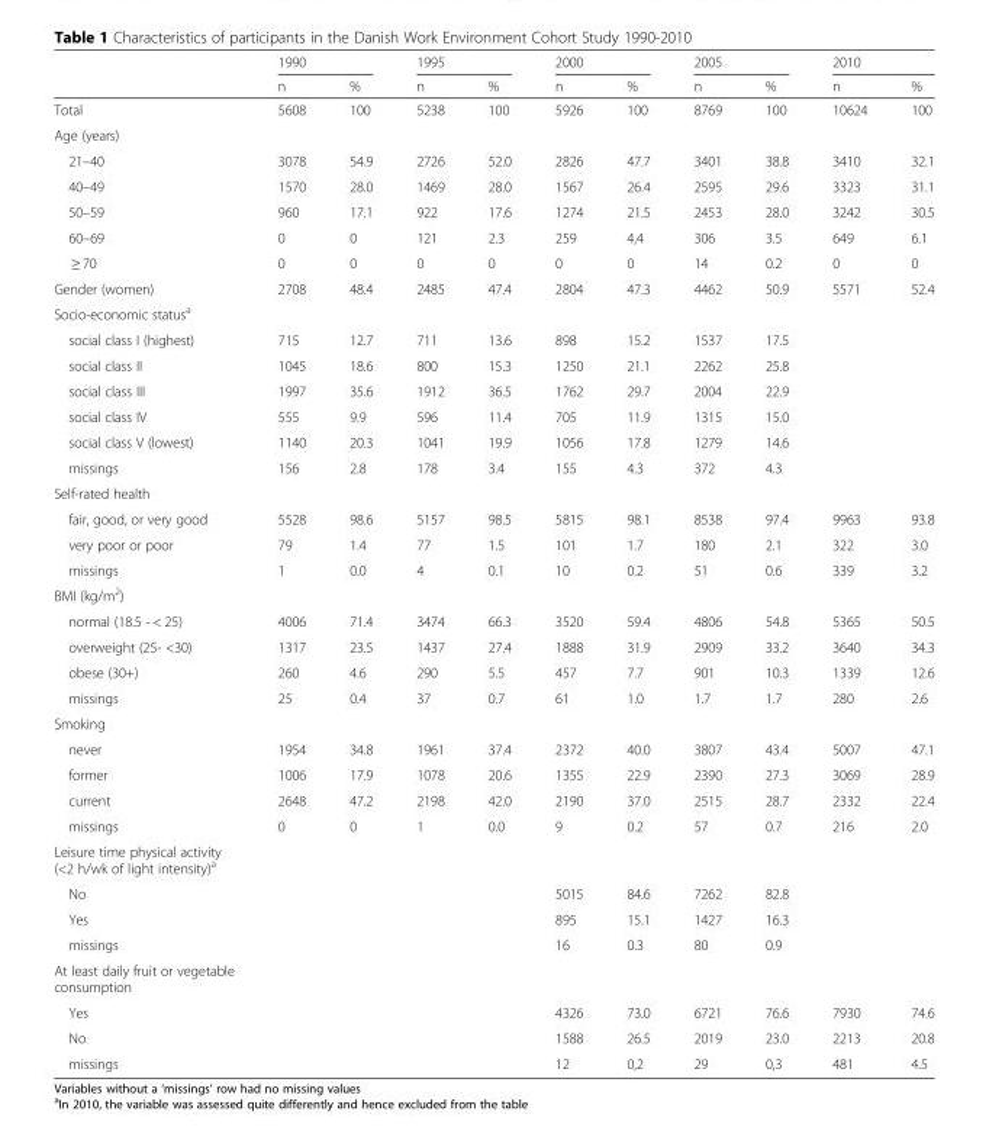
<table><thead><tr><td rowspan="2"></td><td colspan="2">1990</td><td colspan="2">1995</td><td colspan="2">2000</td><td colspan="2">2005</td><td colspan="2">2010</td></tr><tr><td>n</td><td>%</td><td>n</td><td>%</td><td>n</td><td>%</td><td>n</td><td>%</td><td>n</td><td>%</td></tr></thead><tbody><tr><td>Total</td><td>5608</td><td>100</td><td>5238</td><td>100</td><td>5926</td><td>100</td><td>8769</td><td>100</td><td>10624</td><td>100</td></tr><tr><td colspan="11">Age (years)</td></tr><tr><td>21–40</td><td>3078</td><td>54.9</td><td>2726</td><td>52.0</td><td>2826</td><td>47.7</td><td>3401</td><td>38.8</td><td>3410</td><td>32.1</td></tr><tr><td>40–49</td><td>1570</td><td>28.0</td><td>1469</td><td>28.0</td><td>1567</td><td>26.4</td><td>2595</td><td>29.6</td><td>3323</td><td>31.1</td></tr><tr><td>50–59</td><td>960</td><td>17.1</td><td>922</td><td>17.6</td><td>1274</td><td>21.5</td><td>2453</td><td>28.0</td><td>3242</td><td>30.5</td></tr><tr><td>60–69</td><td>0</td><td>0</td><td>121</td><td>2.3</td><td>259</td><td>4,4</td><td>306</td><td>3.5</td><td>649</td><td>6.1</td></tr><tr><td>≥ 70</td><td>0</td><td>0</td><td>0</td><td>0</td><td>0</td><td>0</td><td>14</td><td>0.2</td><td>0</td><td>0</td></tr><tr><td>Gender (women)</td><td>2708</td><td>48.4</td><td>2485</td><td>47.4</td><td>2804</td><td>47.3</td><td>4462</td><td>50.9</td><td>5571</td><td>52.4</td></tr><tr><td colspan="11">Socio-economic status<sup>a</sup></td></tr><tr><td>social class I (highest)</td><td>715</td><td>12.7</td><td>711</td><td>13.6</td><td>898</td><td>15.2</td><td>1537</td><td>17.5</td><td></td><td></td></tr><tr><td>social class II</td><td>1045</td><td>18.6</td><td>800</td><td>15.3</td><td>1250</td><td>21.1</td><td>2262</td><td>25.8</td><td></td><td></td></tr><tr><td>social class III</td><td>1997</td><td>35.6</td><td>1912</td><td>36.5</td><td>1762</td><td>29.7</td><td>2004</td><td>22.9</td><td></td><td></td></tr><tr><td>social class IV</td><td>555</td><td>9.9</td><td>596</td><td>11.4</td><td>705</td><td>11.9</td><td>1315</td><td>15.0</td><td></td><td></td></tr><tr><td>social class V (lowest)</td><td>1140</td><td>20.3</td><td>1041</td><td>19.9</td><td>1056</td><td>17.8</td><td>1279</td><td>14.6</td><td></td><td></td></tr><tr><td>missings</td><td>156</td><td>2.8</td><td>178</td><td>3.4</td><td>155</td><td>4.3</td><td>372</td><td>4.3</td><td></td><td></td></tr><tr><td colspan="11">Self-rated health</td></tr><tr><td>fair, good, or very good</td><td>5528</td><td>98.6</td><td>5157</td><td>98.5</td><td>5815</td><td>98.1</td><td>8538</td><td>97.4</td><td>9963</td><td>93.8</td></tr><tr><td>very poor or poor</td><td>79</td><td>1.4</td><td>77</td><td>1.5</td><td>101</td><td>1.7</td><td>180</td><td>2.1</td><td>322</td><td>3.0</td></tr><tr><td>missings</td><td>1</td><td>0.0</td><td>4</td><td>0.1</td><td>10</td><td>0.2</td><td>51</td><td>0.6</td><td>339</td><td>3.2</td></tr><tr><td colspan="11">BMI (kg/m<sup>2</sup>)</td></tr><tr><td>normal (18.5 - &lt; 25)</td><td>4006</td><td>71.4</td><td>3474</td><td>66.3</td><td>3520</td><td>59.4</td><td>4806</td><td>54.8</td><td>5365</td><td>50.5</td></tr><tr><td>overweight (25- &lt;30)</td><td>1317</td><td>23.5</td><td>1437</td><td>27.4</td><td>1888</td><td>31.9</td><td>2909</td><td>33.2</td><td>3640</td><td>34.3</td></tr><tr><td>obese (30+)</td><td>260</td><td>4.6</td><td>290</td><td>5.5</td><td>457</td><td>7.7</td><td>901</td><td>10.3</td><td>1339</td><td>12.6</td></tr><tr><td>missings</td><td>25</td><td>0.4</td><td>37</td><td>0.7</td><td>61</td><td>1.0</td><td>1.7</td><td>1.7</td><td>280</td><td>2.6</td></tr><tr><td colspan="11">Smoking</td></tr><tr><td>never</td><td>1954</td><td>34.8</td><td>1961</td><td>37.4</td><td>2372</td><td>40.0</td><td>3807</td><td>43.4</td><td>5007</td><td>47.1</td></tr><tr><td>former</td><td>1006</td><td>17.9</td><td>1078</td><td>20.6</td><td>1355</td><td>22.9</td><td>2390</td><td>27.3</td><td>3069</td><td>28.9</td></tr><tr><td>current</td><td>2648</td><td>47.2</td><td>2198</td><td>42.0</td><td>2190</td><td>37.0</td><td>2515</td><td>28.7</td><td>2332</td><td>22.4</td></tr><tr><td>missings</td><td>0</td><td>0</td><td>1</td><td>0.0</td><td>9</td><td>0.2</td><td>57</td><td>0.7</td><td>216</td><td>2.0</td></tr><tr><td colspan="11">Leisure time physical activity (&lt;2 h/wk of light intensity)<sup>a</sup></td></tr><tr><td>No</td><td></td><td></td><td></td><td></td><td>5015</td><td>84.6</td><td>7262</td><td>82.8</td><td></td><td></td></tr><tr><td>Yes</td><td></td><td></td><td></td><td></td><td>895</td><td>15.1</td><td>1427</td><td>16.3</td><td></td><td></td></tr><tr><td>missings</td><td></td><td></td><td></td><td></td><td>16</td><td>0.3</td><td>80</td><td>0.9</td><td></td><td></td></tr><tr><td colspan="11">At least daily fruit or vegetable consumption</td></tr><tr><td>Yes</td><td></td><td></td><td></td><td></td><td>4326</td><td>73.0</td><td>6721</td><td>76.6</td><td>7930</td><td>74.6</td></tr><tr><td>No</td><td></td><td></td><td></td><td></td><td>1588</td><td>26.5</td><td>2019</td><td>23.0</td><td>2213</td><td>20.8</td></tr><tr><td>missings</td><td></td><td></td><td></td><td></td><td>12</td><td>0,2</td><td>29</td><td>0,3</td><td>481</td><td>4.5</td></tr></tbody></table>